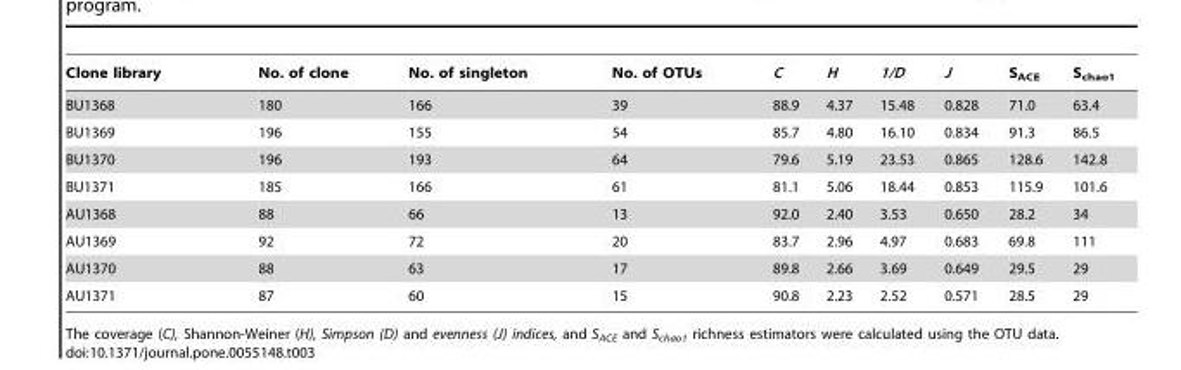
<table><thead><tr><td>Clone library</td><td>No. of clone</td><td>No. of singleton</td><td>No. of OTUs</td><td>C</td><td>H</td><td>1/D</td><td>J</td><td>S<sub>ACE</sub></td><td>S<sub>chao1</sub></td></tr></thead><tbody><tr><td>BU1368</td><td>180</td><td>166</td><td>39</td><td>88.9</td><td>4.37</td><td>15.48</td><td>0.828</td><td>71.0</td><td>63.4</td></tr><tr><td>BU1369</td><td>196</td><td>155</td><td>54</td><td>85.7</td><td>4.80</td><td>16.10</td><td>0.834</td><td>91.3</td><td>86.5</td></tr><tr><td>BU1370</td><td>196</td><td>193</td><td>64</td><td>79.6</td><td>5.19</td><td>23.53</td><td>0.865</td><td>128.6</td><td>142.8</td></tr><tr><td>BU1371</td><td>185</td><td>166</td><td>61</td><td>81.1</td><td>5.06</td><td>18.44</td><td>0.853</td><td>115.9</td><td>101.6</td></tr><tr><td>AU1368</td><td>88</td><td>66</td><td>13</td><td>92.0</td><td>2.40</td><td>3.53</td><td>0.650</td><td>28.2</td><td>34</td></tr><tr><td>AU1369</td><td>92</td><td>72</td><td>20</td><td>83.7</td><td>2.96</td><td>4.97</td><td>0.683</td><td>69.8</td><td>111</td></tr><tr><td>AU1370</td><td>88</td><td>63</td><td>17</td><td>89.8</td><td>2.66</td><td>3.69</td><td>0.649</td><td>29.5</td><td>29</td></tr><tr><td>AU1371</td><td>87</td><td>60</td><td>15</td><td>90.8</td><td>2.23</td><td>2.52</td><td>0.571</td><td>28.5</td><td>29</td></tr></tbody></table>